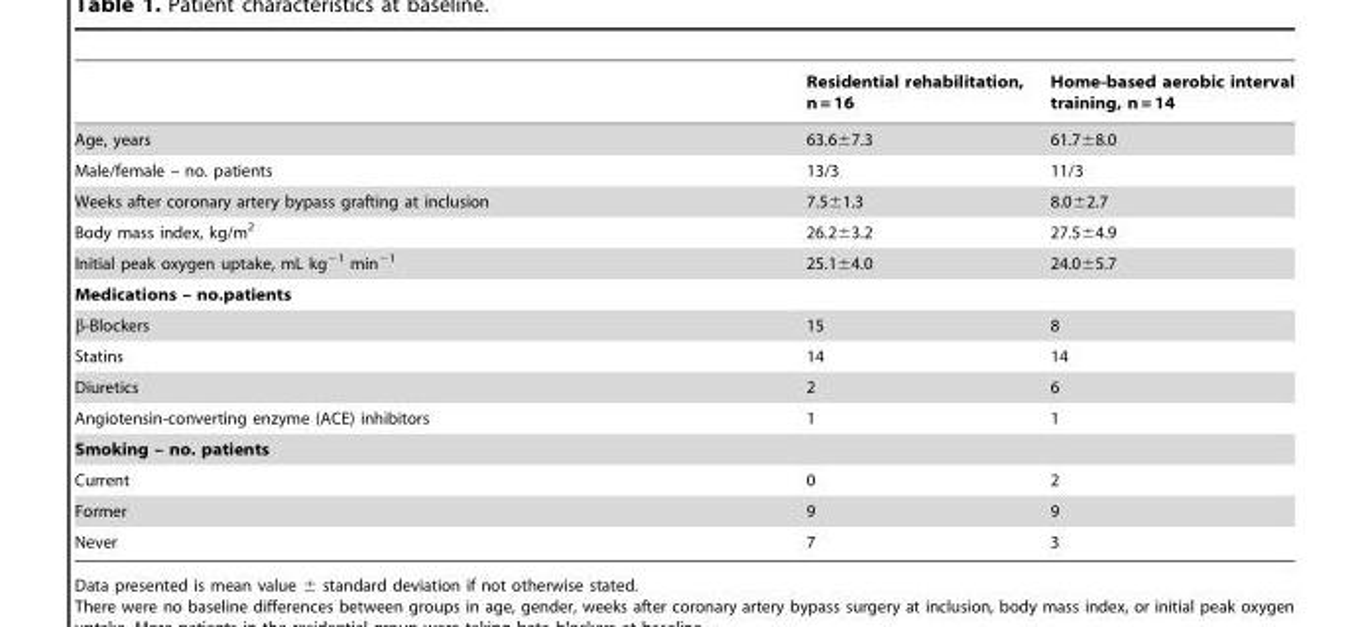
<table><thead><tr><td></td><td>Residential rehabilitation, n = 16</td><td>Home-based aerobic interval training, n = 14</td></tr></thead><tbody><tr><td>Age, years</td><td>63.6±7.3</td><td>61.7±8.0</td></tr><tr><td>Male/female – no. patients</td><td>13/3</td><td>11/3</td></tr><tr><td>Weeks after coronary artery bypass grafting at inclusion</td><td>7.5±1.3</td><td>8.0±2.7</td></tr><tr><td>Body mass index, kg/m<sup>2</sup></td><td>26.2±3.2</td><td>27.5±4.9</td></tr><tr><td>Initial peak oxygen uptake, mL kg<sup>−1</sup> min<sup>−1</sup></td><td>25.1±4.0</td><td>24.0±5.7</td></tr><tr><td colspan="3">Medications – no.patients</td></tr><tr><td>β-Blockers</td><td>15</td><td>8</td></tr><tr><td>Statins</td><td>14</td><td>14</td></tr><tr><td>Diuretics</td><td>2</td><td>6</td></tr><tr><td>Angiotensin-converting enzyme (ACE) inhibitors</td><td>1</td><td>1</td></tr><tr><td colspan="3">Smoking – no. patients</td></tr><tr><td>Current</td><td>0</td><td>2</td></tr><tr><td>Former</td><td>9</td><td>9</td></tr><tr><td>Never</td><td>7</td><td>3</td></tr></tbody></table>